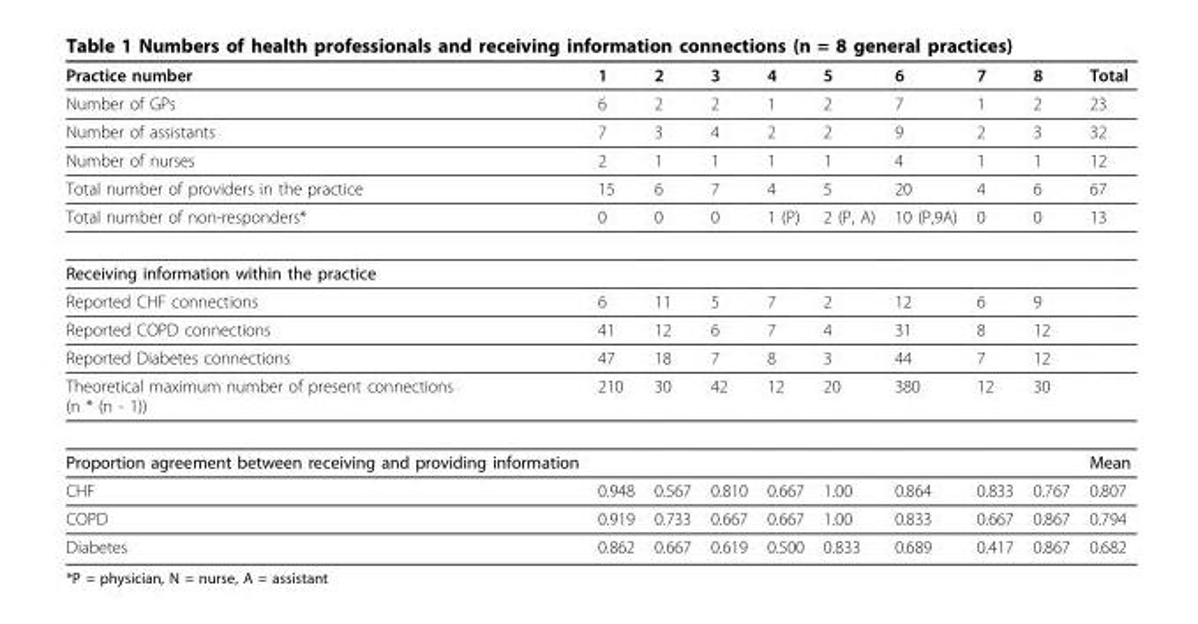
<table><thead><tr><td>Practice number</td><td>1</td><td>2</td><td>3</td><td>4</td><td>5</td><td>6</td><td>7</td><td>8</td><td>Total</td></tr></thead><tbody><tr><td>Number of GPs</td><td>6</td><td>2</td><td>2</td><td>1</td><td>2</td><td>7</td><td>1</td><td>2</td><td>23</td></tr><tr><td>Number of assistants</td><td>7</td><td>3</td><td>4</td><td>2</td><td>2</td><td>9</td><td>2</td><td>3</td><td>32</td></tr><tr><td>Number of nurses</td><td>2</td><td>1</td><td>1</td><td>1</td><td>1</td><td>4</td><td>1</td><td>1</td><td>12</td></tr><tr><td>Total number of providers in the practice</td><td>15</td><td>6</td><td>7</td><td>4</td><td>5</td><td>20</td><td>4</td><td>6</td><td>67</td></tr><tr><td>Total number of non-responders*</td><td>0</td><td>0</td><td>0</td><td>1 (P)</td><td>2 (P, A)</td><td>10 (P,9A)</td><td>0</td><td>0</td><td>13</td></tr><tr><td colspan="10">Receiving information within the practice</td></tr><tr><td>Reported CHF connections</td><td>6</td><td>11</td><td>5</td><td>7</td><td>2</td><td>12</td><td>6</td><td>9</td><td></td></tr><tr><td>Reported COPD connections</td><td>41</td><td>12</td><td>6</td><td>7</td><td>4</td><td>31</td><td>8</td><td>12</td><td></td></tr><tr><td>Reported Diabetes connections</td><td>47</td><td>18</td><td>7</td><td>8</td><td>3</td><td>44</td><td>7</td><td>12</td><td></td></tr><tr><td>Theoretical maximum number of present connections (n * (n - 1))</td><td>210</td><td>30</td><td>42</td><td>12</td><td>20</td><td>380</td><td>12</td><td>30</td><td></td></tr><tr><td>Proportion agreement between receiving and providing information</td><td></td><td></td><td></td><td></td><td></td><td></td><td></td><td></td><td>Mean</td></tr><tr><td>CHF</td><td>0.948</td><td>0.567</td><td>0.810</td><td>0.667</td><td>1.00</td><td>0.864</td><td>0.833</td><td>0.767</td><td>0.807</td></tr><tr><td>COPD</td><td>0.919</td><td>0.733</td><td>0.667</td><td>0.667</td><td>1.00</td><td>0.833</td><td>0.667</td><td>0.867</td><td>0.794</td></tr><tr><td>Diabetes</td><td>0.862</td><td>0.667</td><td>0.619</td><td>0.500</td><td>0.833</td><td>0.689</td><td>0.417</td><td>0.867</td><td>0.682</td></tr></tbody></table>